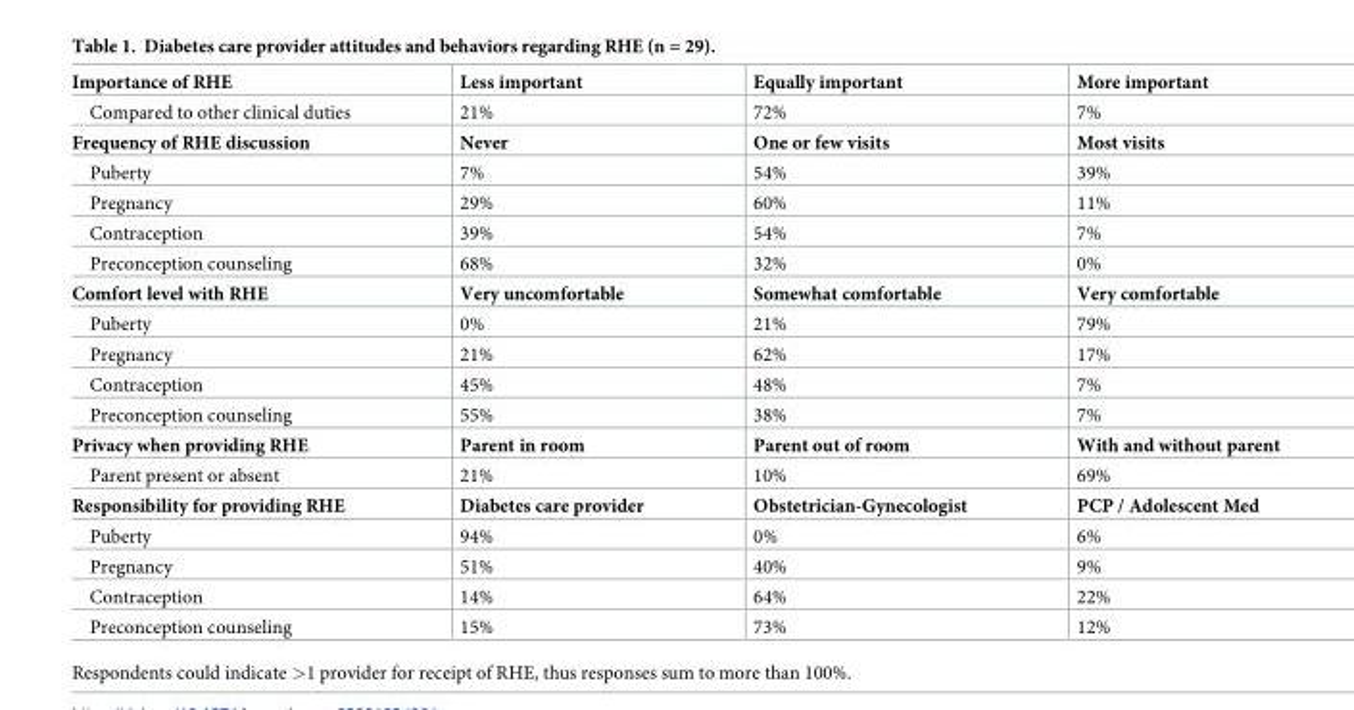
<table><tbody><tr><td>Importance of RHE</td><td>Less important</td><td>Equally important</td><td>More important</td></tr><tr><td>Compared to other clinical duties</td><td>21%</td><td>72%</td><td>7%</td></tr><tr><td>Frequency of RHE discussion</td><td>Never</td><td>One or few visits</td><td>Most visits</td></tr><tr><td>Puberty</td><td>7%</td><td>54%</td><td>39%</td></tr><tr><td>Pregnancy</td><td>29%</td><td>60%</td><td>11%</td></tr><tr><td>Contraception</td><td>39%</td><td>54%</td><td>7%</td></tr><tr><td>Preconception counseling</td><td>68%</td><td>32%</td><td>0%</td></tr><tr><td>Comfort level with RHE</td><td>Very uncomfortable</td><td>Somewhat comfortable</td><td>Very comfortable</td></tr><tr><td>Puberty</td><td>0%</td><td>21%</td><td>79%</td></tr><tr><td>Pregnancy</td><td>21%</td><td>62%</td><td>17%</td></tr><tr><td>Contraception</td><td>45%</td><td>48%</td><td>7%</td></tr><tr><td>Preconception counseling</td><td>55%</td><td>38%</td><td>7%</td></tr><tr><td>Privacy when providing RHE</td><td>Parent in room</td><td>Parent out of room</td><td>With and without parent</td></tr><tr><td>Parent present or absent</td><td>21%</td><td>10%</td><td>69%</td></tr><tr><td>Responsibility for providing RHE</td><td>Diabetes care provider</td><td>Obstetrician-Gynecologist</td><td>PCP / Adolescent Med</td></tr><tr><td>Puberty</td><td>94%</td><td>0%</td><td>6%</td></tr><tr><td>Pregnancy</td><td>51%</td><td>40%</td><td>9%</td></tr><tr><td>Contraception</td><td>14%</td><td>64%</td><td>22%</td></tr><tr><td>Preconception counseling</td><td>15%</td><td>73%</td><td>12%</td></tr></tbody></table>